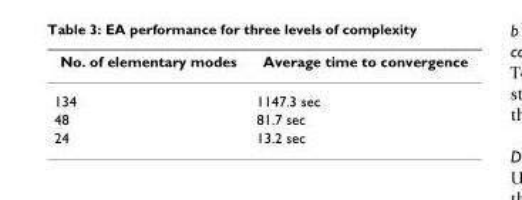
<table><thead><tr><td>No. of elementary modes</td><td>Average time to convergence</td></tr></thead><tbody><tr><td>134</td><td>1147.3 sec</td></tr><tr><td>48</td><td>81.7 sec</td></tr><tr><td>24</td><td>13.2 sec</td></tr></tbody></table>